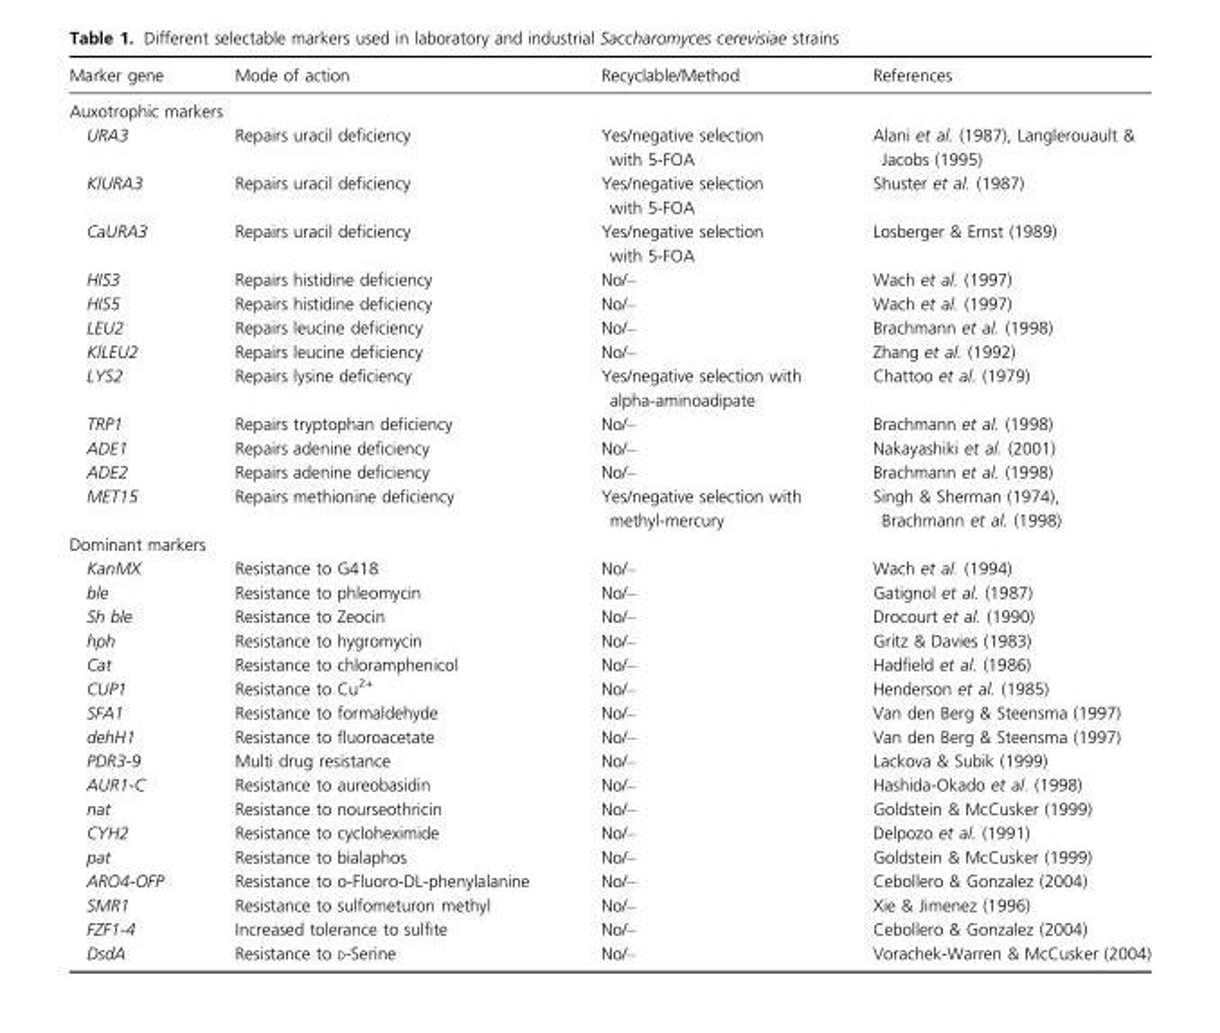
<table><thead><tr><td>Marker gene</td><td>Mode of action</td><td>Recyclable/Method</td><td>References</td></tr></thead><tbody><tr><td colspan="4">Auxotrophic markers</td></tr><tr><td>URA3</td><td>Repairs uracil deficiency</td><td>Yes/negative selection with 5-FOA</td><td>Alani et al. (1987), Langlerouault &amp; Jacobs (1995)</td></tr><tr><td>KlURA3</td><td>Repairs uracil deficiency</td><td>Yes/negative selection with 5-FOA</td><td>Shuster et al. (1987)</td></tr><tr><td>CaURA3</td><td>Repairs uracil deficiency</td><td>Yes/negative selection with 5-FOA</td><td>Losberger &amp; Ernst (1989)</td></tr><tr><td>HIS3</td><td>Repairs histidine deficiency</td><td>No/–</td><td>Wach et al. (1997)</td></tr><tr><td>HIS5</td><td>Repairs histidine deficiency</td><td>No/–</td><td>Wach et al. (1997)</td></tr><tr><td>LEU2</td><td>Repairs leucine deficiency</td><td>No/–</td><td>Brachmann et al. (1998)</td></tr><tr><td>KlLEU2</td><td>Repairs leucine deficiency</td><td>No/–</td><td>Zhang et al. (1992)</td></tr><tr><td>LYS2</td><td>Repairs lysine deficiency</td><td>Yes/negative selection with alpha-aminoadipate</td><td>Chattoo et al. (1979)</td></tr><tr><td>TRP1</td><td>Repairs tryptophan deficiency</td><td>No/–</td><td>Brachmann et al. (1998)</td></tr><tr><td>ADE1</td><td>Repairs adenine deficiency</td><td>No/–</td><td>Nakayashiki et al. (2001)</td></tr><tr><td>ADE2</td><td>Repairs adenine deficiency</td><td>No/–</td><td>Brachmann et al. (1998)</td></tr><tr><td>MET15</td><td>Repairs methionine deficiency</td><td>Yes/negative selection with methyl-mercury</td><td>Singh &amp; Sherman (1974), Brachmann et al. (1998)</td></tr><tr><td colspan="4">Dominant markers</td></tr><tr><td>KanMX</td><td>Resistance to G418</td><td>No/–</td><td>Wach et al. (1994)</td></tr><tr><td>ble</td><td>Resistance to phleomycin</td><td>No/–</td><td>Gatignol et al. (1987)</td></tr><tr><td>Sh ble</td><td>Resistance to Zeocin</td><td>No/–</td><td>Drocourt et al. (1990)</td></tr><tr><td>hph</td><td>Resistance to hygromycin</td><td>No/–</td><td>Gritz &amp; Davies (1983)</td></tr><tr><td>Cat</td><td>Resistance to chloramphenicol</td><td>No/–</td><td>Hadfield et al. (1986)</td></tr><tr><td>CUP1</td><td>Resistance to Cu<sup>2+</sup></td><td>No/–</td><td>Henderson et al. (1985)</td></tr><tr><td>SFA1</td><td>Resistance to formaldehyde</td><td>No/–</td><td>Van den Berg &amp; Steensma (1997)</td></tr><tr><td>dehH1</td><td>Resistance to fluoroacetate</td><td>No/–</td><td>Van den Berg &amp; Steensma (1997)</td></tr><tr><td>PDR3-9</td><td>Multi drug resistance</td><td>No/–</td><td>Lackova &amp; Subik (1999)</td></tr><tr><td>AUR1-C</td><td>Resistance to aureobasidin</td><td>No/–</td><td>Hashida-Okado et al. (1998)</td></tr><tr><td>nat</td><td>Resistance to nourseothricin</td><td>No/–</td><td>Goldstein &amp; McCusker (1999)</td></tr><tr><td>CYH2</td><td>Resistance to cycloheximide</td><td>No/–</td><td>Delpozo et al. (1991)</td></tr><tr><td>pat</td><td>Resistance to bialaphos</td><td>No/–</td><td>Goldstein &amp; McCusker (1999)</td></tr><tr><td>ARO4-OFP</td><td>Resistance to o-Fluoro-DL-phenylalanine</td><td>No/–</td><td>Cebollero &amp; Gonzalez (2004)</td></tr><tr><td>SMR1</td><td>Resistance to sulfometuron methyl</td><td>No/–</td><td>Xie &amp; Jimenez (1996)</td></tr><tr><td>FZF1-4</td><td>Increased tolerance to sulfite</td><td>No/–</td><td>Cebollero &amp; Gonzalez (2004)</td></tr><tr><td>DsdA</td><td>Resistance to D-Serine</td><td>No/–</td><td>Vorachek-Warren &amp; McCusker (2004)</td></tr></tbody></table>